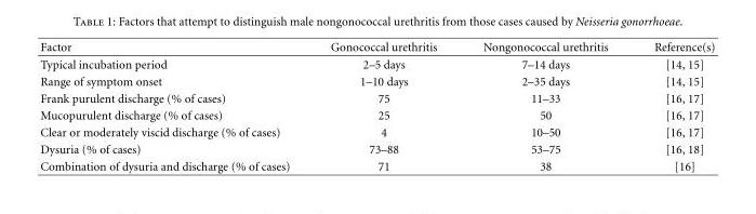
<table><thead><tr><td>Factor</td><td>Gonococcal urethritis</td><td>Nongonococcal urethritis</td><td>Reference(s)</td></tr></thead><tbody><tr><td>Typical incubation period</td><td>2–5 days</td><td>7–14 days</td><td>[14, 15]</td></tr><tr><td>Range of symptom onset</td><td>1–10 days</td><td>2–35 days</td><td>[14, 15]</td></tr><tr><td>Frank purulent discharge (% of cases)</td><td>75</td><td>11–33</td><td>[16, 17]</td></tr><tr><td>Mucopurulent discharge (% of cases)</td><td>25</td><td>50</td><td>[16, 17]</td></tr><tr><td>Clear or moderately viscid discharge (% of cases)</td><td>4</td><td>10–50</td><td>[16, 17]</td></tr><tr><td>Dysuria (% of cases)</td><td>73–88</td><td>53–75</td><td>[16, 18]</td></tr><tr><td>Combination of dysuria and discharge (% of cases)</td><td>71</td><td>38</td><td>[16]</td></tr></tbody></table>